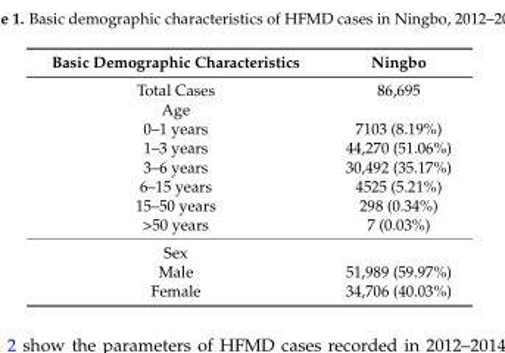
<table><thead><tr><td>Basic Demographic Characteristics</td><td>Ningbo</td></tr></thead><tbody><tr><td>Total Cases</td><td>86,695</td></tr><tr><td colspan="2">Age</td></tr><tr><td>0–1 years</td><td>7103 (8.19%)</td></tr><tr><td>1–3 years</td><td>44,270 (51.06%)</td></tr><tr><td>3–6 years</td><td>30,492 (35.17%)</td></tr><tr><td>6–15 years</td><td>4525 (5.21%)</td></tr><tr><td>15–50 years</td><td>298 (0.34%)</td></tr><tr><td>&gt;50 years</td><td>7 (0.03%)</td></tr><tr><td colspan="2">Sex</td></tr><tr><td>Male</td><td>51,989 (59.97%)</td></tr><tr><td>Female</td><td>34,706 (40.03%)</td></tr></tbody></table>